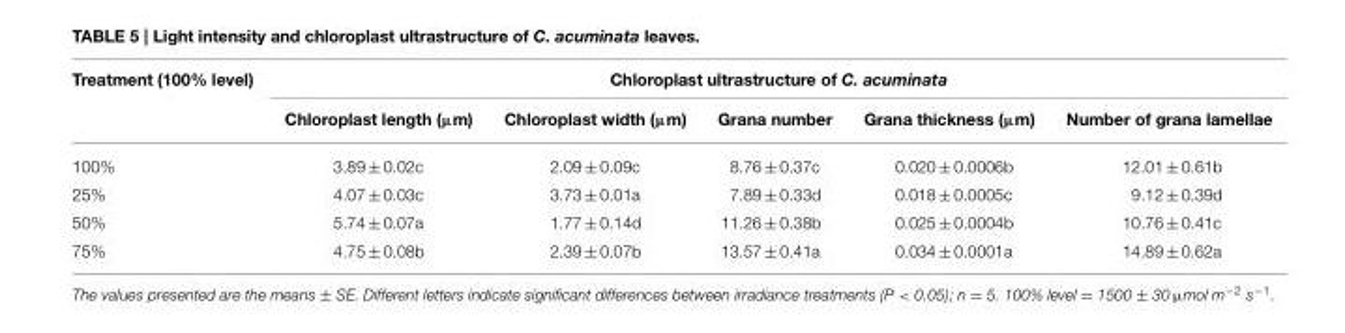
<table><thead><tr><td rowspan="2">Treatment (100% level)</td><td colspan="5">Chloroplast ultrastructure of C. acuminata</td></tr><tr><td>Chloroplast length (µm)</td><td>Chloroplast width (µm)</td><td>Grana number</td><td>Grana thickness (µm)</td><td>Number of grana lamellae</td></tr></thead><tbody><tr><td>100%</td><td>3.89 ± 0.02c</td><td>2.09 ± 0.09c</td><td>8.76 ± 0.37c</td><td>0.020 ± 0.0006b</td><td>12.01 ± 0.61b</td></tr><tr><td>25%</td><td>4.07 ± 0.03c</td><td>3.73 ± 0.01a</td><td>7.89 ± 0.33d</td><td>0.018 ± 0.0005c</td><td>9.12 ± 0.39d</td></tr><tr><td>50%</td><td>5.74 ± 0.07a</td><td>1.77 ± 0.14d</td><td>11.26 ± 0.38b</td><td>0.025 ± 0.0004b</td><td>10.76 ± 0.41c</td></tr><tr><td>75%</td><td>4.75 ± 0.08b</td><td>2.39 ± 0.07b</td><td>13.57 ± 0.41a</td><td>0.034 ± 0.0001a</td><td>14.89 ± 0.62a</td></tr></tbody></table>